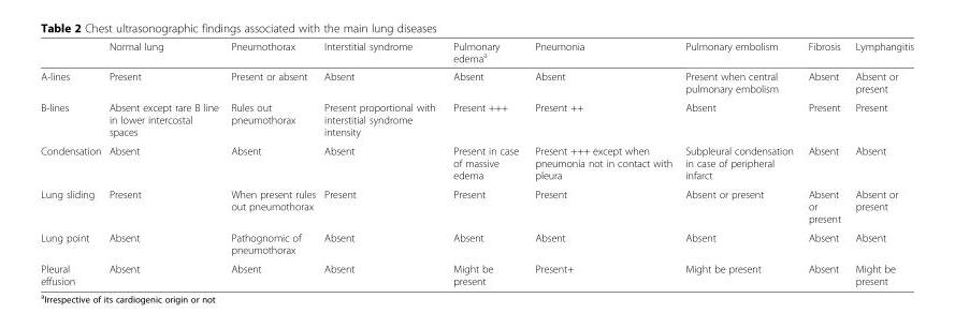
<table><thead><tr><td></td><td>Normal lung</td><td>Pneumothorax</td><td>Interstitial syndrome</td><td>Pulmonary edema<sup>a</sup></td><td>Pneumonia</td><td>Pulmonary embolism</td><td>Fibrosis</td><td>Lymphangitis</td></tr></thead><tbody><tr><td>A-lines</td><td>Present</td><td>Present or absent</td><td>Absent</td><td>Absent</td><td>Absent</td><td>Present when central pulmonary embolism</td><td>Absent</td><td>Absent or present</td></tr><tr><td>B-lines</td><td>Absent except rare B line in lower intercostal spaces</td><td>Rules out pneumothorax</td><td>Present proportional with interstitial syndrome intensity</td><td>Present +++</td><td>Present ++</td><td>Absent</td><td>Present</td><td>Present</td></tr><tr><td>Condensation</td><td>Absent</td><td>Absent</td><td>Absent</td><td>Present in case of massive edema</td><td>Present +++ except when pneumonia not in contact with pleura</td><td>Subpleural condensation in case of peripheral infarct</td><td>Absent</td><td>Absent</td></tr><tr><td>Lung sliding</td><td>Present</td><td>When present rules out pneumothorax</td><td>Present</td><td>Present</td><td>Present</td><td>Absent or present</td><td>Absent or present</td><td>Absent or present</td></tr><tr><td>Lung point</td><td>Absent</td><td>Pathognomic of pneumothorax</td><td>Absent</td><td>Absent</td><td>Absent</td><td>Absent</td><td>Absent</td><td>Absent</td></tr><tr><td>Pleural effusion</td><td>Absent</td><td>Absent</td><td>Absent</td><td>Might be present</td><td>Present+</td><td>Might be present</td><td>Absent</td><td>Might be present</td></tr></tbody></table>